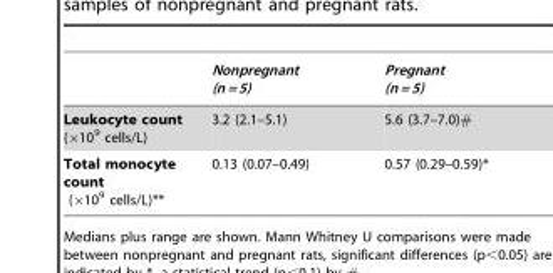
<table><thead><tr><td></td><td>Nonpregnant (n = 5)</td><td>Pregnant (n = 5)</td></tr></thead><tbody><tr><td>Leukocyte count (×10<sup>9</sup> cells/L)</td><td>3.2 (2.1–5.1)</td><td>5.6 (3.7–7.0)#</td></tr><tr><td>Total monocyte count (×10<sup>9</sup> cells/L)**</td><td>0.13 (0.07–0.49)</td><td>0.57 (0.29–0.59)*</td></tr></tbody></table>